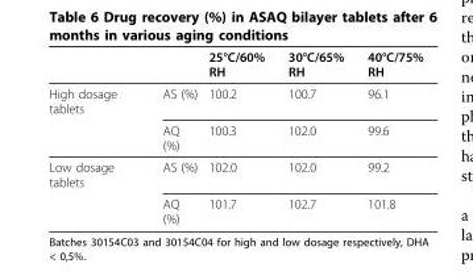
<table><thead><tr><td></td><td></td><td>25°C/60% RH</td><td>30°C/65% RH</td><td>40°C/75% RH</td></tr></thead><tbody><tr><td rowspan="2">High dosage tablets</td><td>AS (%)</td><td>100.2</td><td>100.7</td><td>96.1</td></tr><tr><td>AQ (%)</td><td>100.3</td><td>102.0</td><td>99.6</td></tr><tr><td rowspan="2">Low dosage tablets</td><td>AS (%)</td><td>102.0</td><td>102.0</td><td>99.2</td></tr><tr><td>AQ (%)</td><td>101.7</td><td>102.7</td><td>101.8</td></tr></tbody></table>